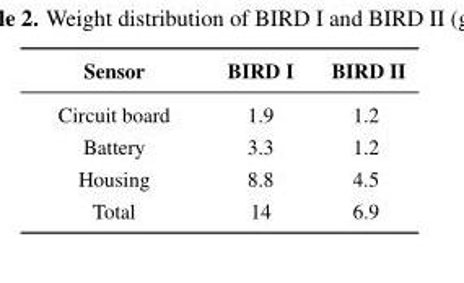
<table><thead><tr><td>Sensor</td><td>BIRD I</td><td>BIRD II</td></tr></thead><tbody><tr><td>Circuit board</td><td>1.9</td><td>1.2</td></tr><tr><td>Battery</td><td>3.3</td><td>1.2</td></tr><tr><td>Housing</td><td>8.8</td><td>4.5</td></tr><tr><td>Total</td><td>14</td><td>6.9</td></tr></tbody></table>